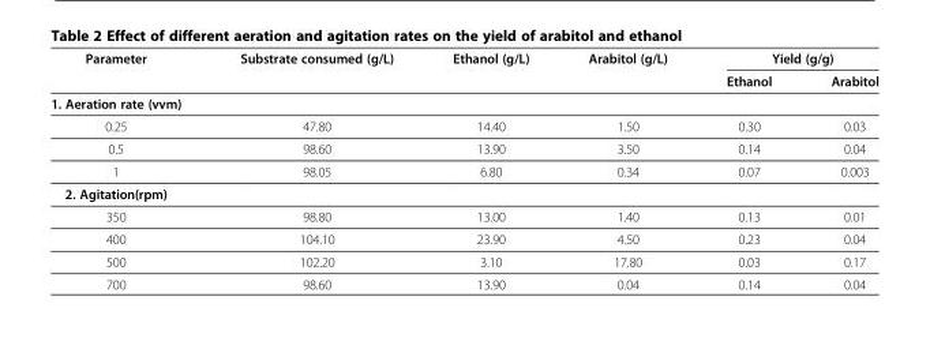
<table><thead><tr><td rowspan="2">Parameter</td><td rowspan="2">Substrate consumed (g/L)</td><td rowspan="2">Ethanol (g/L)</td><td rowspan="2">Arabitol (g/L)</td><td colspan="2">Yield (g/g)</td></tr><tr><td>Ethanol</td><td>Arabitol</td></tr></thead><tbody><tr><td colspan="6">1. Aeration rate (vvm)</td></tr><tr><td>0.25</td><td>47.80</td><td>14.40</td><td>1.50</td><td>0.30</td><td>0.03</td></tr><tr><td>0.5</td><td>98.60</td><td>13.90</td><td>3.50</td><td>0.14</td><td>0.04</td></tr><tr><td>1</td><td>98.05</td><td>6.80</td><td>0.34</td><td>0.07</td><td>0.003</td></tr><tr><td colspan="6">2. Agitation(rpm)</td></tr><tr><td>350</td><td>98.80</td><td>13.00</td><td>1.40</td><td>0.13</td><td>0.01</td></tr><tr><td>400</td><td>104.10</td><td>23.90</td><td>4.50</td><td>0.23</td><td>0.04</td></tr><tr><td>500</td><td>102.20</td><td>3.10</td><td>17.80</td><td>0.03</td><td>0.17</td></tr><tr><td>700</td><td>98.60</td><td>13.90</td><td>0.04</td><td>0.14</td><td>0.04</td></tr></tbody></table>